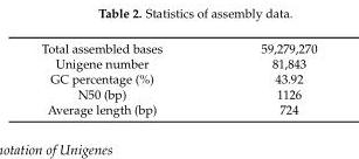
<table><tbody><tr><td>Total assembled bases</td><td>59,279,270</td></tr><tr><td>Unigene number</td><td>81,843</td></tr><tr><td>GC percentage (%)</td><td>43.92</td></tr><tr><td>N50 (bp)</td><td>1126</td></tr><tr><td>Average length (bp)</td><td>724</td></tr></tbody></table>